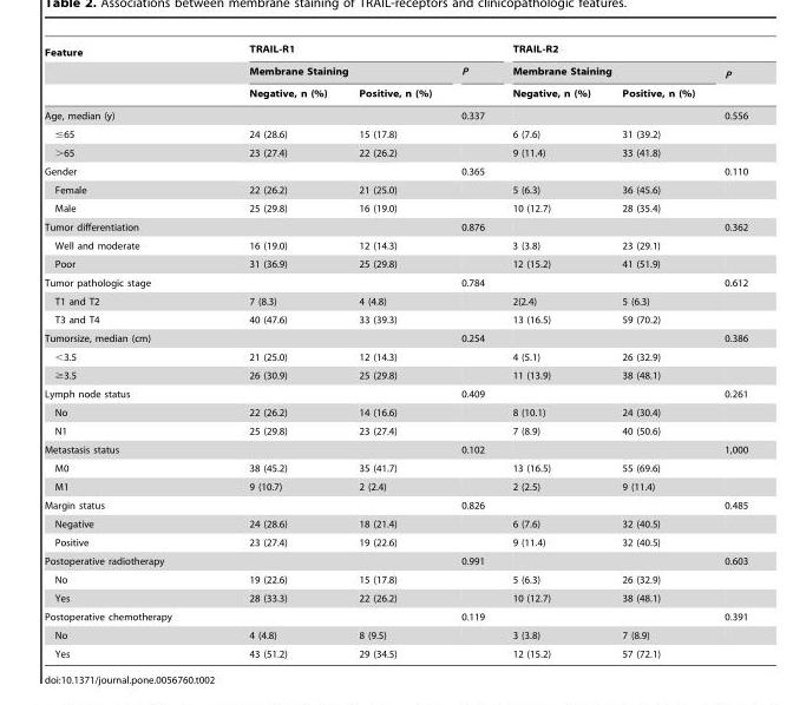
<table><thead><tr><td rowspan="3">Feature</td><td colspan="3">TRAIL-R1</td><td colspan="3">TRAIL-R2</td></tr><tr><td colspan="2">Membrane Staining</td><td rowspan="2">P</td><td colspan="2">Membrane Staining</td><td rowspan="2">P</td></tr><tr><td>Negative, n (%)</td><td>Positive, n (%)</td><td>Negative, n (%)</td><td>Positive, n (%)</td></tr></thead><tbody><tr><td colspan="3">Age, median (y)</td><td>0.337</td><td colspan="2"></td><td>0.556</td></tr><tr><td>≤65</td><td>24 (28.6)</td><td>15 (17.8)</td><td></td><td>6 (7.6)</td><td>31 (39.2)</td><td></td></tr><tr><td>&gt;65</td><td>23 (27.4)</td><td>22 (26.2)</td><td></td><td>9 (11.4)</td><td>33 (41.8)</td><td></td></tr><tr><td colspan="3">Gender</td><td>0.365</td><td colspan="2"></td><td>0.110</td></tr><tr><td>Female</td><td>22 (26.2)</td><td>21 (25.0)</td><td></td><td>5 (6.3)</td><td>36 (45.6)</td><td></td></tr><tr><td>Male</td><td>25 (29.8)</td><td>16 (19.0)</td><td></td><td>10 (12.7)</td><td>28 (35.4)</td><td></td></tr><tr><td colspan="3">Tumor differentiation</td><td>0.876</td><td colspan="2"></td><td>0.362</td></tr><tr><td>Well and moderate</td><td>16 (19.0)</td><td>12 (14.3)</td><td></td><td>3 (3.8)</td><td>23 (29.1)</td><td></td></tr><tr><td>Poor</td><td>31 (36.9)</td><td>25 (29.8)</td><td></td><td>12 (15.2)</td><td>41 (51.9)</td><td></td></tr><tr><td colspan="3">Tumor pathologic stage</td><td>0.784</td><td colspan="2"></td><td>0.612</td></tr><tr><td>T1 and T2</td><td>7 (8.3)</td><td>4 (4.8)</td><td></td><td>2(2.4)</td><td>5 (6.3)</td><td></td></tr><tr><td>T3 and T4</td><td>40 (47.6)</td><td>33 (39.3)</td><td></td><td>13 (16.5)</td><td>59 (70.2)</td><td></td></tr><tr><td colspan="3">Tumorsize, median (cm)</td><td>0.254</td><td colspan="2"></td><td>0.386</td></tr><tr><td>&lt;3.5</td><td>21 (25.0)</td><td>12 (14.3)</td><td></td><td>4 (5.1)</td><td>26 (32.9)</td><td></td></tr><tr><td>≥3.5</td><td>26 (30.9)</td><td>25 (29.8)</td><td></td><td>11 (13.9)</td><td>38 (48.1)</td><td></td></tr><tr><td colspan="3">Lymph node status</td><td>0.409</td><td colspan="2"></td><td>0.261</td></tr><tr><td>No</td><td>22 (26.2)</td><td>14 (16.6)</td><td></td><td>8 (10.1)</td><td>24 (30.4)</td><td></td></tr><tr><td>N1</td><td>25 (29.8)</td><td>23 (27.4)</td><td></td><td>7 (8.9)</td><td>40 (50.6)</td><td></td></tr><tr><td colspan="3">Metastasis status</td><td>0.102</td><td colspan="2"></td><td>1,000</td></tr><tr><td>M0</td><td>38 (45.2)</td><td>35 (41.7)</td><td></td><td>13 (16.5)</td><td>55 (69.6)</td><td></td></tr><tr><td>M1</td><td>9 (10.7)</td><td>2 (2.4)</td><td></td><td>2 (2.5)</td><td>9 (11.4)</td><td></td></tr><tr><td colspan="3">Margin status</td><td>0.826</td><td colspan="2"></td><td>0.485</td></tr><tr><td>Negative</td><td>24 (28.6)</td><td>18 (21.4)</td><td></td><td>6 (7.6)</td><td>32 (40.5)</td><td></td></tr><tr><td>Positive</td><td>23 (27.4)</td><td>19 (22.6)</td><td></td><td>9 (11.4)</td><td>32 (40.5)</td><td></td></tr><tr><td colspan="3">Postoperative radiotherapy</td><td>0.991</td><td colspan="2"></td><td>0.603</td></tr><tr><td>No</td><td>19 (22.6)</td><td>15 (17.8)</td><td></td><td>5 (6.3)</td><td>26 (32.9)</td><td></td></tr><tr><td>Yes</td><td>28 (33.3)</td><td>22 (26.2)</td><td></td><td>10 (12.7)</td><td>38 (48.1)</td><td></td></tr><tr><td colspan="3">Postoperative chemotherapy</td><td>0.119</td><td colspan="2"></td><td>0.391</td></tr><tr><td>No</td><td>4 (4.8)</td><td>8 (9.5)</td><td></td><td>3 (3.8)</td><td>7 (8.9)</td><td></td></tr><tr><td>Yes</td><td>43 (51.2)</td><td>29 (34.5)</td><td></td><td>12 (15.2)</td><td>57 (72.1)</td><td></td></tr></tbody></table>